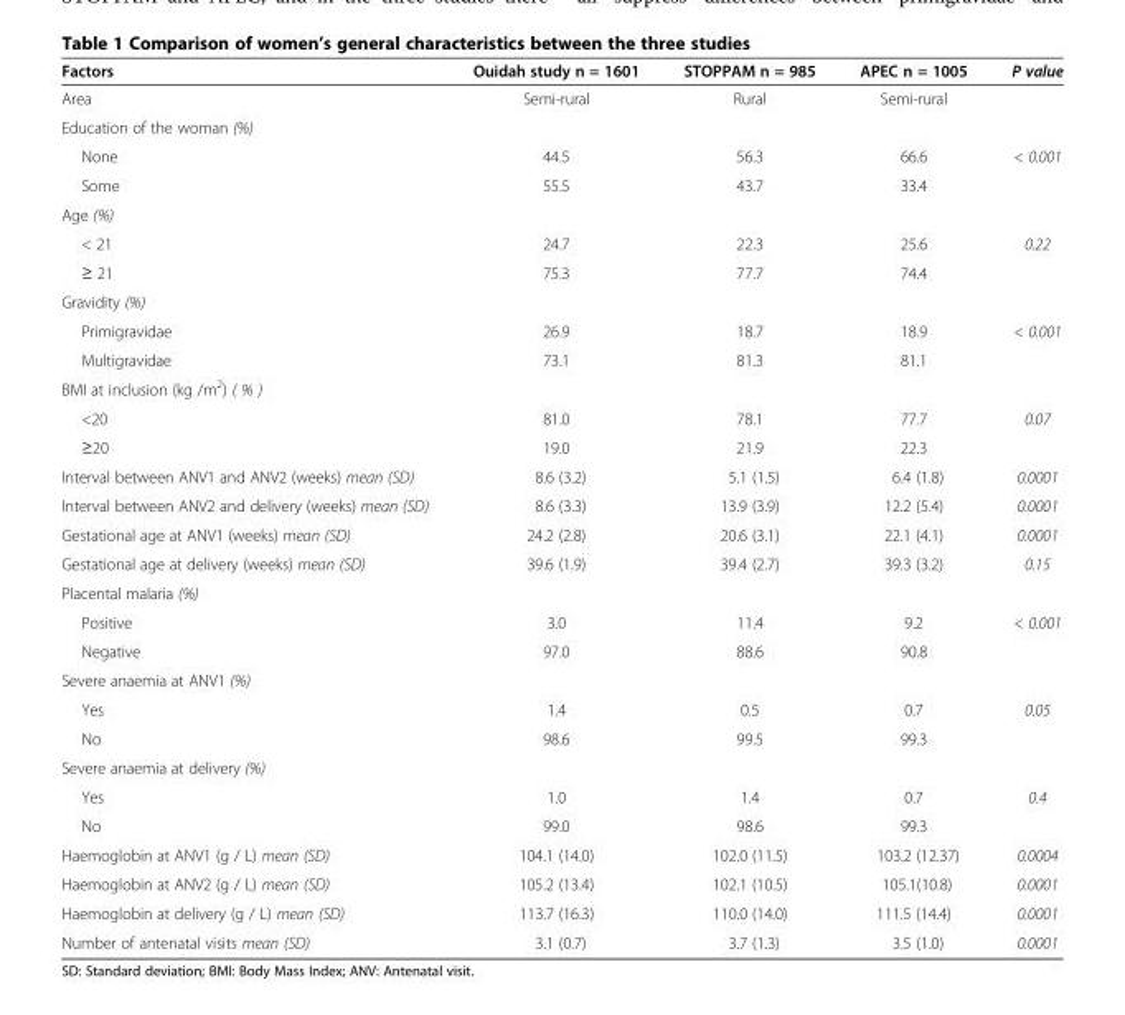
<table><thead><tr><td>Factors</td><td>Ouidah study n = 1601</td><td>STOPPAM n = 985</td><td>APEC n = 1005</td><td>P value</td></tr></thead><tbody><tr><td>Area</td><td>Semi-rural</td><td>Rural</td><td>Semi-rural</td><td></td></tr><tr><td colspan="5">Education of the woman (%)</td></tr><tr><td>None</td><td>44.5</td><td>56.3</td><td>66.6</td><td>&lt; 0.001</td></tr><tr><td>Some</td><td>55.5</td><td>43.7</td><td>33.4</td><td></td></tr><tr><td colspan="5">Age (%)</td></tr><tr><td>&lt; 21</td><td>24.7</td><td>22.3</td><td>25.6</td><td>0.22</td></tr><tr><td>≥ 21</td><td>75.3</td><td>77.7</td><td>74.4</td><td></td></tr><tr><td colspan="5">Gravidity (%)</td></tr><tr><td>Primigravidae</td><td>26.9</td><td>18.7</td><td>18.9</td><td>&lt; 0.001</td></tr><tr><td>Multigravidae</td><td>73.1</td><td>81.3</td><td>81.1</td><td></td></tr><tr><td colspan="5">BMI at inclusion (kg /m<sup>2</sup>) ( % )</td></tr><tr><td>&lt;20</td><td>81.0</td><td>78.1</td><td>77.7</td><td>0.07</td></tr><tr><td>≥20</td><td>19.0</td><td>21.9</td><td>22.3</td><td></td></tr><tr><td>Interval between ANV1 and ANV2 (weeks) mean (SD)</td><td>8.6 (3.2)</td><td>5.1 (1.5)</td><td>6.4 (1.8)</td><td>0.0001</td></tr><tr><td>Interval between ANV2 and delivery (weeks) mean (SD)</td><td>8.6 (3.3)</td><td>13.9 (3.9)</td><td>12.2 (5.4)</td><td>0.0001</td></tr><tr><td>Gestational age at ANV1 (weeks) mean (SD)</td><td>24.2 (2.8)</td><td>20.6 (3.1)</td><td>22.1 (4.1)</td><td>0.0001</td></tr><tr><td>Gestational age at delivery (weeks) mean (SD)</td><td>39.6 (1.9)</td><td>39.4 (2.7)</td><td>39.3 (3.2)</td><td>0.15</td></tr><tr><td colspan="5">Placental malaria (%)</td></tr><tr><td>Positive</td><td>3.0</td><td>11.4</td><td>9.2</td><td>&lt; 0.001</td></tr><tr><td>Negative</td><td>97.0</td><td>88.6</td><td>90.8</td><td></td></tr><tr><td colspan="5">Severe anaemia at ANV1 (%)</td></tr><tr><td>Yes</td><td>1.4</td><td>0.5</td><td>0.7</td><td>0.05</td></tr><tr><td>No</td><td>98.6</td><td>99.5</td><td>99.3</td><td></td></tr><tr><td colspan="5">Severe anaemia at delivery (%)</td></tr><tr><td>Yes</td><td>1.0</td><td>1.4</td><td>0.7</td><td>0.4</td></tr><tr><td>No</td><td>99.0</td><td>98.6</td><td>99.3</td><td></td></tr><tr><td>Haemoglobin at ANV1 (g / L) mean (SD)</td><td>104.1 (14.0)</td><td>102.0 (11.5)</td><td>103.2 (12.37)</td><td>0.0004</td></tr><tr><td>Haemoglobin at ANV2 (g / L) mean (SD)</td><td>105.2 (13.4)</td><td>102.1 (10.5)</td><td>105.1(10.8)</td><td>0.0001</td></tr><tr><td>Haemoglobin at delivery (g / L) mean (SD)</td><td>113.7 (16.3)</td><td>110.0 (14.0)</td><td>111.5 (14.4)</td><td>0.0001</td></tr><tr><td>Number of antenatal visits mean (SD)</td><td>3.1 (0.7)</td><td>3.7 (1.3)</td><td>3.5 (1.0)</td><td>0.0001</td></tr></tbody></table>